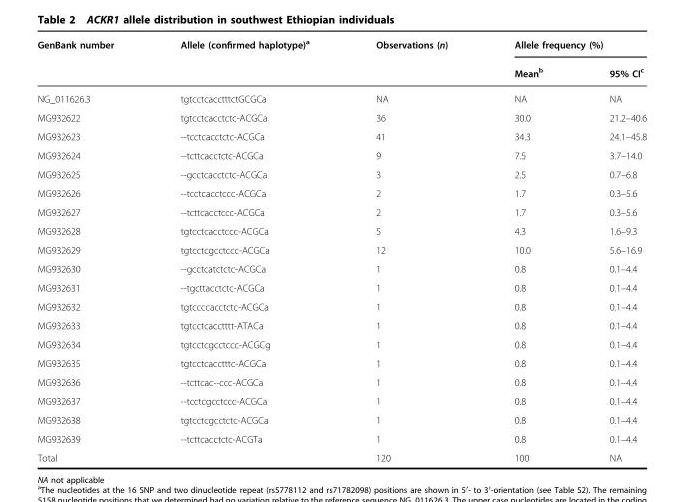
<table><thead><tr><td rowspan="2">GenBank number</td><td rowspan="2">Allele (confirmed haplotype)<sup>a</sup></td><td rowspan="2">Observations (n)</td><td colspan="2">Allele frequency (%)</td></tr><tr><td>Mean<sup>b</sup></td><td>95% CI<sup>c</sup></td></tr></thead><tbody><tr><td>NG_011626.3</td><td>tgtcctcacctttctGCGCa</td><td>NA</td><td>NA</td><td>NA</td></tr><tr><td>MG932622</td><td>tgtcctcacctctc-ACGCa</td><td>36</td><td>30.0</td><td>21.2–40.6</td></tr><tr><td>MG932623</td><td>--tcctcacctctc-ACGCa</td><td>41</td><td>34.3</td><td>24.1–45.8</td></tr><tr><td>MG932624</td><td>--tcttcacctctc-ACGCa</td><td>9</td><td>7.5</td><td>3.7–14.0</td></tr><tr><td>MG932625</td><td>--gcctcacctctc-ACGCa</td><td>3</td><td>2.5</td><td>0.7–6.8</td></tr><tr><td>MG932626</td><td>--tcctcacctccc-ACGCa</td><td>2</td><td>1.7</td><td>0.3–5.6</td></tr><tr><td>MG932627</td><td>--tcttcacctccc-ACGCa</td><td>2</td><td>1.7</td><td>0.3–5.6</td></tr><tr><td>MG932628</td><td>tgtcctcacctccc-ACGCa</td><td>5</td><td>4.3</td><td>1.6–9.3</td></tr><tr><td>MG932629</td><td>tgtcctcgcctccc-ACGCa</td><td>12</td><td>10.0</td><td>5.6–16.9</td></tr><tr><td>MG932630</td><td>--gcctcatctctc-ACGCa</td><td>1</td><td>0.8</td><td>0.1–4.4</td></tr><tr><td>MG932631</td><td>--tgcttacctctc-ACGCa</td><td>1</td><td>0.8</td><td>0.1–4.4</td></tr><tr><td>MG932632</td><td>tgtccccacctctc-ACGCa</td><td>1</td><td>0.8</td><td>0.1–4.4</td></tr><tr><td>MG932633</td><td>tgtcctcacctttt-ATACa</td><td>1</td><td>0.8</td><td>0.1–4.4</td></tr><tr><td>MG932634</td><td>tgtcctcgcctccc-ACGCg</td><td>1</td><td>0.8</td><td>0.1–4.4</td></tr><tr><td>MG932635</td><td>tgtcctcacctttc-ACGCa</td><td>1</td><td>0.8</td><td>0.1–4.4</td></tr><tr><td>MG932636</td><td>--tcttcac--ccc-ACGCa</td><td>1</td><td>0.8</td><td>0.1–4.4</td></tr><tr><td>MG932637</td><td>--tcctcgcctccc-ACGCa</td><td>1</td><td>0.8</td><td>0.1–4.4</td></tr><tr><td>MG932638</td><td>tgtcctcgcctctc-ACGCa</td><td>1</td><td>0.8</td><td>0.1–4.4</td></tr><tr><td>MG932639</td><td>--tcttcacctctc-ACGTa</td><td>1</td><td>0.8</td><td>0.1–4.4</td></tr><tr><td>Total</td><td></td><td>120</td><td>100</td><td>NA</td></tr></tbody></table>